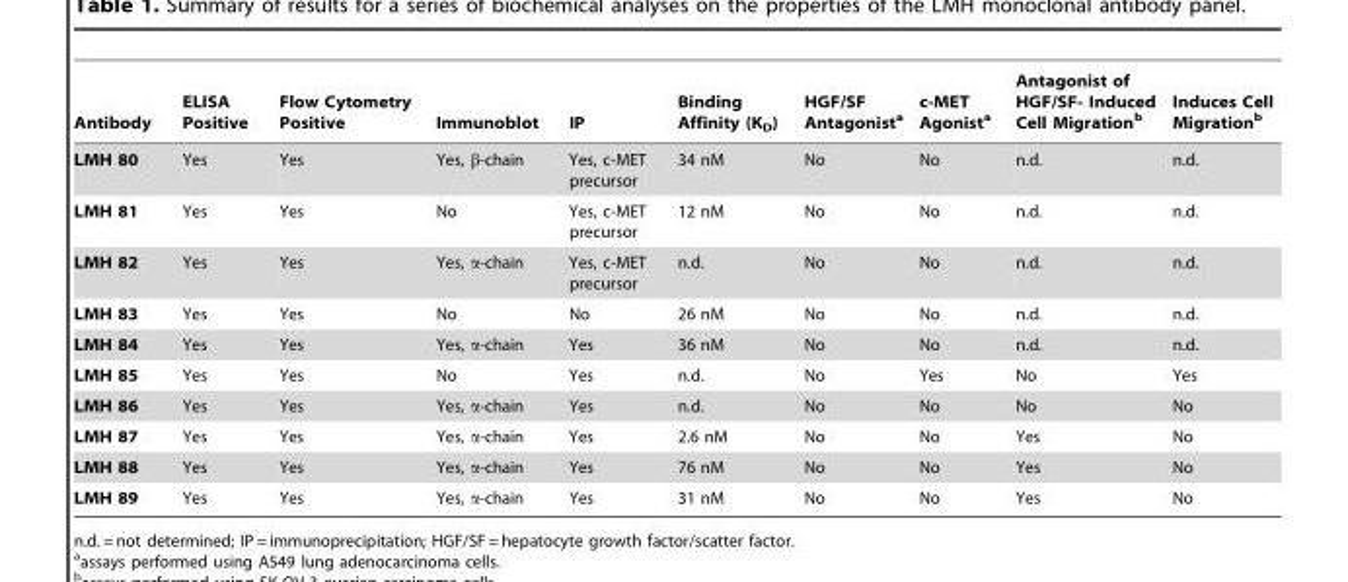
<table><thead><tr><td>Antibody</td><td>ELISA Positive</td><td>Flow Cytometry Positive</td><td>Immunoblot</td><td>IP</td><td>Binding Affinity (K<sub>D</sub>)</td><td>HGF/SF Antagonist<sup>a</sup></td><td>c-MET Agonist<sup>a</sup></td><td>Antagonist of HGF/SF- Induced Cell Migration<sup>b</sup></td><td>Induces Cell Migration<sup>b</sup></td></tr></thead><tbody><tr><td>LMH 80</td><td>Yes</td><td>Yes</td><td>Yes, β-chain</td><td>Yes, c-MET precursor</td><td>34 nM</td><td>No</td><td>No</td><td>n.d.</td><td>n.d.</td></tr><tr><td>LMH 81</td><td>Yes</td><td>Yes</td><td>No</td><td>Yes, c-MET precursor</td><td>12 nM</td><td>No</td><td>No</td><td>n.d.</td><td>n.d.</td></tr><tr><td>LMH 82</td><td>Yes</td><td>Yes</td><td>Yes, α-chain</td><td>Yes, c-MET precursor</td><td>n.d.</td><td>No</td><td>No</td><td>n.d.</td><td>n.d.</td></tr><tr><td>LMH 83</td><td>Yes</td><td>Yes</td><td>No</td><td>No</td><td>26 nM</td><td>No</td><td>No</td><td>n.d.</td><td>n.d.</td></tr><tr><td>LMH 84</td><td>Yes</td><td>Yes</td><td>Yes, α-chain</td><td>Yes</td><td>36 nM</td><td>No</td><td>No</td><td>n.d.</td><td>n.d.</td></tr><tr><td>LMH 85</td><td>Yes</td><td>Yes</td><td>No</td><td>Yes</td><td>n.d.</td><td>No</td><td>Yes</td><td>No</td><td>Yes</td></tr><tr><td>LMH 86</td><td>Yes</td><td>Yes</td><td>Yes, α-chain</td><td>Yes</td><td>n.d.</td><td>No</td><td>No</td><td>No</td><td>No</td></tr><tr><td>LMH 87</td><td>Yes</td><td>Yes</td><td>Yes, α-chain</td><td>Yes</td><td>2.6 nM</td><td>No</td><td>No</td><td>Yes</td><td>No</td></tr><tr><td>LMH 88</td><td>Yes</td><td>Yes</td><td>Yes, α-chain</td><td>Yes</td><td>76 nM</td><td>No</td><td>No</td><td>Yes</td><td>No</td></tr><tr><td>LMH 89</td><td>Yes</td><td>Yes</td><td>Yes, α-chain</td><td>Yes</td><td>31 nM</td><td>No</td><td>No</td><td>Yes</td><td>No</td></tr></tbody></table>